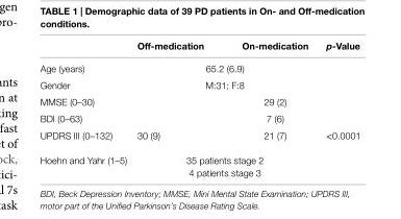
<table><thead><tr><td></td><td>Off-medication</td><td>On-medication</td><td>p-Value</td></tr></thead><tbody><tr><td>Age (years)</td><td colspan="2">65.2 (6.9)</td><td></td></tr><tr><td>Gender</td><td colspan="2">M:31; F:8</td><td></td></tr><tr><td>MMSE (0–30)</td><td></td><td>29 (2)</td><td></td></tr><tr><td>BDI (0–63)</td><td></td><td>7 (6)</td><td></td></tr><tr><td>UPDRS III (0–132)</td><td>30 (9)</td><td>21 (7)</td><td>&lt;0.0001</td></tr><tr><td rowspan="2">Hoehn and Yahr (1–5)</td><td colspan="2">35 patients stage 2</td><td rowspan="2"></td></tr><tr><td colspan="2">4 patients stage 3</td></tr></tbody></table>